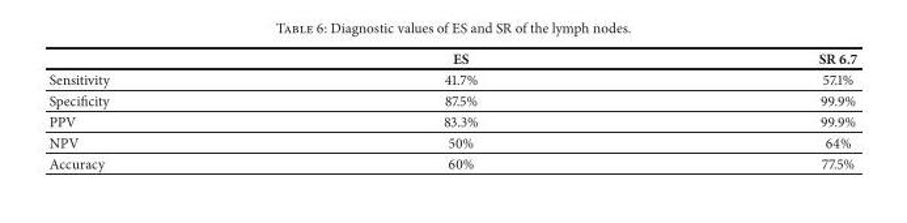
<table><thead><tr><td></td><td>ES</td><td>SR 6.7</td></tr></thead><tbody><tr><td>Sensitivity</td><td>41.7%</td><td>57.1%</td></tr><tr><td>Specificity</td><td>87.5%</td><td>99.9%</td></tr><tr><td>PPV</td><td>83.3%</td><td>99.9%</td></tr><tr><td>NPV</td><td>50%</td><td>64%</td></tr><tr><td>Accuracy</td><td>60%</td><td>77.5%</td></tr></tbody></table>